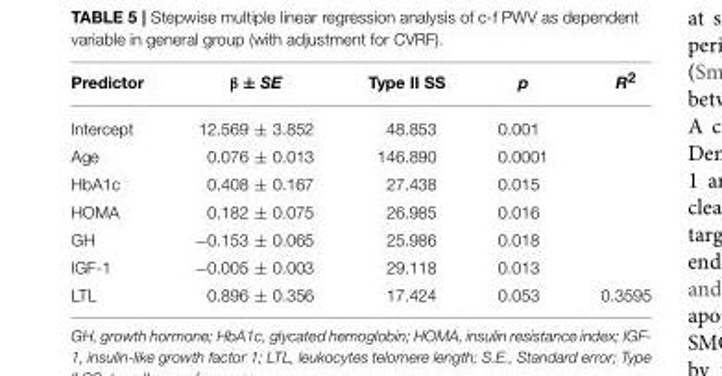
<table><thead><tr><td>Predictor</td><td>β ± SE</td><td>Type II SS</td><td>p</td><td>R<sup>2</sup></td></tr></thead><tbody><tr><td>Intercept</td><td>12.569 ± 3.852</td><td>48.853</td><td>0.001</td><td></td></tr><tr><td>Age</td><td>0.076 ± 0.013</td><td>146.890</td><td>0.0001</td><td></td></tr><tr><td>HbA1c</td><td>0.408 ± 0.167</td><td>27.438</td><td>0.015</td><td></td></tr><tr><td>HOMA</td><td>0.182 ± 0.075</td><td>26.985</td><td>0.016</td><td></td></tr><tr><td>GH</td><td>−0.153 ± 0.065</td><td>25.986</td><td>0.018</td><td></td></tr><tr><td>IGF-1</td><td>−0.005 ± 0.003</td><td>29.118</td><td>0.013</td><td></td></tr><tr><td>LTL</td><td>0.896 ± 0.356</td><td>17.424</td><td>0.053</td><td>0.3595</td></tr></tbody></table>